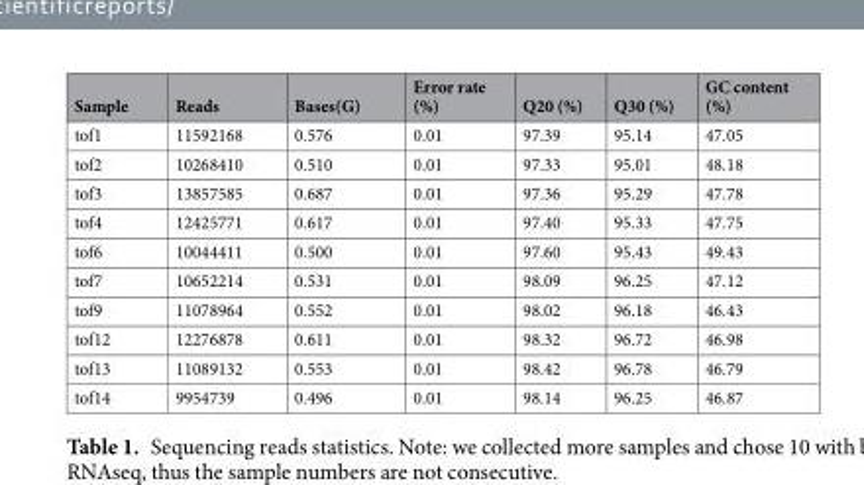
<table><thead><tr><td>Sample</td><td>Reads</td><td>Bases(G)</td><td>Error rate (%)</td><td>Q20 (%)</td><td>Q30 (%)</td><td>GC content (%)</td></tr></thead><tbody><tr><td>tof1</td><td>11592168</td><td>0.576</td><td>0.01</td><td>97.39</td><td>95.14</td><td>47.05</td></tr><tr><td>tof2</td><td>10268410</td><td>0.510</td><td>0.01</td><td>97.33</td><td>95.01</td><td>48.18</td></tr><tr><td>tof3</td><td>13857585</td><td>0.687</td><td>0.01</td><td>97.36</td><td>95.29</td><td>47.78</td></tr><tr><td>tof4</td><td>12425771</td><td>0.617</td><td>0.01</td><td>97.40</td><td>95.33</td><td>47.75</td></tr><tr><td>tof6</td><td>10044411</td><td>0.500</td><td>0.01</td><td>97.60</td><td>95.43</td><td>49.43</td></tr><tr><td>tof7</td><td>10652214</td><td>0.531</td><td>0.01</td><td>98.09</td><td>96.25</td><td>47.12</td></tr><tr><td>tof9</td><td>11078964</td><td>0.552</td><td>0.01</td><td>98.02</td><td>96.18</td><td>46.43</td></tr><tr><td>tof12</td><td>12276878</td><td>0.611</td><td>0.01</td><td>98.32</td><td>96.72</td><td>46.98</td></tr><tr><td>tof13</td><td>11089132</td><td>0.553</td><td>0.01</td><td>98.42</td><td>96.78</td><td>46.79</td></tr><tr><td>tof14</td><td>9954739</td><td>0.496</td><td>0.01</td><td>98.14</td><td>96.25</td><td>46.87</td></tr></tbody></table>